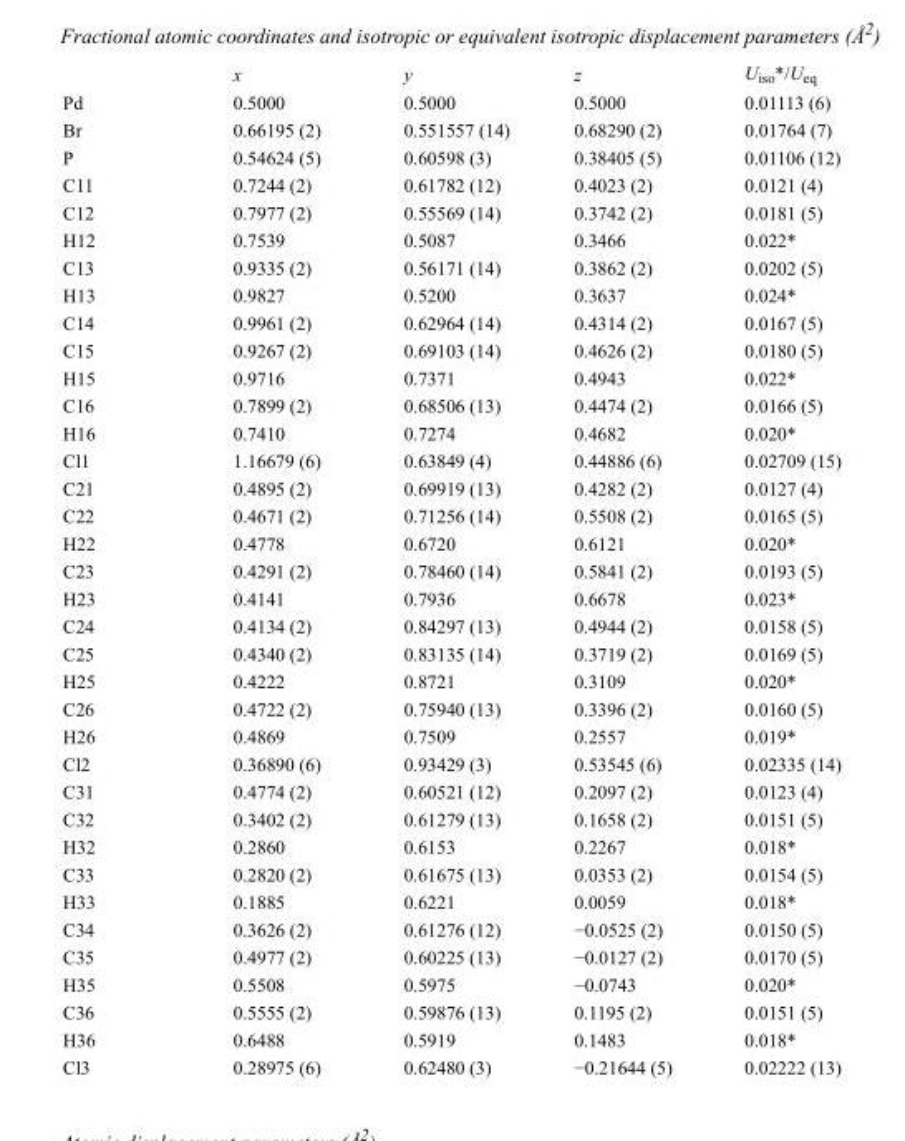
<table><thead><tr><td></td><td>x</td><td>y</td><td>z</td><td>U<sub>iso</sub>*/U<sub>eq</sub></td></tr></thead><tbody><tr><td>Pd</td><td>0.5000</td><td>0.5000</td><td>0.5000</td><td>0.01113 (6)</td></tr><tr><td>Br</td><td>0.66195 (2)</td><td>0.551557 (14)</td><td>0.68290 (2)</td><td>0.01764 (7)</td></tr><tr><td>P</td><td>0.54624 (5)</td><td>0.60598 (3)</td><td>0.38405 (5)</td><td>0.01106 (12)</td></tr><tr><td>C11</td><td>0.7244 (2)</td><td>0.61782 (12)</td><td>0.4023 (2)</td><td>0.0121 (4)</td></tr><tr><td>C12</td><td>0.7977 (2)</td><td>0.55569 (14)</td><td>0.3742 (2)</td><td>0.0181 (5)</td></tr><tr><td>H12</td><td>0.7539</td><td>0.5087</td><td>0.3466</td><td>0.022*</td></tr><tr><td>C13</td><td>0.9335 (2)</td><td>0.56171 (14)</td><td>0.3862 (2)</td><td>0.0202 (5)</td></tr><tr><td>H13</td><td>0.9827</td><td>0.5200</td><td>0.3637</td><td>0.024*</td></tr><tr><td>C14</td><td>0.9961 (2)</td><td>0.62964 (14)</td><td>0.4314 (2)</td><td>0.0167 (5)</td></tr><tr><td>C15</td><td>0.9267 (2)</td><td>0.69103 (14)</td><td>0.4626 (2)</td><td>0.0180 (5)</td></tr><tr><td>H15</td><td>0.9716</td><td>0.7371</td><td>0.4943</td><td>0.022*</td></tr><tr><td>C16</td><td>0.7899 (2)</td><td>0.68506 (13)</td><td>0.4474 (2)</td><td>0.0166 (5)</td></tr><tr><td>H16</td><td>0.7410</td><td>0.7274</td><td>0.4682</td><td>0.020*</td></tr><tr><td>Cl1</td><td>1.16679 (6)</td><td>0.63849 (4)</td><td>0.44886 (6)</td><td>0.02709 (15)</td></tr><tr><td>C21</td><td>0.4895 (2)</td><td>0.69919 (13)</td><td>0.4282 (2)</td><td>0.0127 (4)</td></tr><tr><td>C22</td><td>0.4671 (2)</td><td>0.71256 (14)</td><td>0.5508 (2)</td><td>0.0165 (5)</td></tr><tr><td>H22</td><td>0.4778</td><td>0.6720</td><td>0.6121</td><td>0.020*</td></tr><tr><td>C23</td><td>0.4291 (2)</td><td>0.78460 (14)</td><td>0.5841 (2)</td><td>0.0193 (5)</td></tr><tr><td>H23</td><td>0.4141</td><td>0.7936</td><td>0.6678</td><td>0.023*</td></tr><tr><td>C24</td><td>0.4134 (2)</td><td>0.84297 (13)</td><td>0.4944 (2)</td><td>0.0158 (5)</td></tr><tr><td>C25</td><td>0.4340 (2)</td><td>0.83135 (14)</td><td>0.3719 (2)</td><td>0.0169 (5)</td></tr><tr><td>H25</td><td>0.4222</td><td>0.8721</td><td>0.3109</td><td>0.020*</td></tr><tr><td>C26</td><td>0.4722 (2)</td><td>0.75940 (13)</td><td>0.3396 (2)</td><td>0.0160 (5)</td></tr><tr><td>H26</td><td>0.4869</td><td>0.7509</td><td>0.2557</td><td>0.019*</td></tr><tr><td>Cl2</td><td>0.36890 (6)</td><td>0.93429 (3)</td><td>0.53545 (6)</td><td>0.02335 (14)</td></tr><tr><td>C31</td><td>0.4774 (2)</td><td>0.60521 (12)</td><td>0.2097 (2)</td><td>0.0123 (4)</td></tr><tr><td>C32</td><td>0.3402 (2)</td><td>0.61279 (13)</td><td>0.1658 (2)</td><td>0.0151 (5)</td></tr><tr><td>H32</td><td>0.2860</td><td>0.6153</td><td>0.2267</td><td>0.018*</td></tr><tr><td>C33</td><td>0.2820 (2)</td><td>0.61675 (13)</td><td>0.0353 (2)</td><td>0.0154 (5)</td></tr><tr><td>H33</td><td>0.1885</td><td>0.6221</td><td>0.0059</td><td>0.018*</td></tr><tr><td>C34</td><td>0.3626 (2)</td><td>0.61276 (12)</td><td>−0.0525 (2)</td><td>0.0150 (5)</td></tr><tr><td>C35</td><td>0.4977 (2)</td><td>0.60225 (13)</td><td>−0.0127 (2)</td><td>0.0170 (5)</td></tr><tr><td>H35</td><td>0.5508</td><td>0.5975</td><td>−0.0743</td><td>0.020*</td></tr><tr><td>C36</td><td>0.5555 (2)</td><td>0.59876 (13)</td><td>0.1195 (2)</td><td>0.0151 (5)</td></tr><tr><td>H36</td><td>0.6488</td><td>0.5919</td><td>0.1483</td><td>0.018*</td></tr><tr><td>Cl3</td><td>0.28975 (6)</td><td>0.62480 (3)</td><td>−0.21644 (5)</td><td>0.02222 (13)</td></tr></tbody></table>